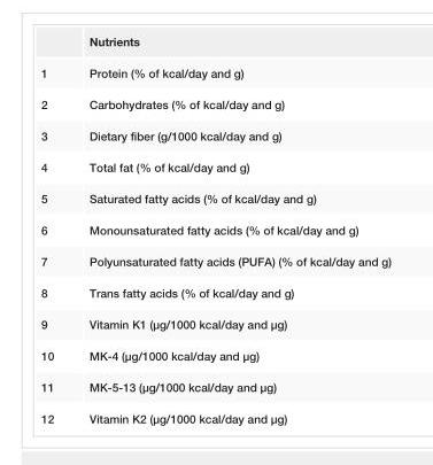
<table><thead><tr><td></td><td>Nutrients</td></tr></thead><tbody><tr><td>1</td><td>Protein (% of kcal/day and g)</td></tr><tr><td>2</td><td>Carbohydrates (% of kcal/day and g)</td></tr><tr><td>3</td><td>Dietary fiber (g/1000 kcal/day and g)</td></tr><tr><td>4</td><td>Total fat (% of kcal/day and g)</td></tr><tr><td>5</td><td>Saturated fatty acids (% of kcal/day and g)</td></tr><tr><td>6</td><td>Monounsaturated fatty acids (% of kcal/day and g)</td></tr><tr><td>7</td><td>Polyunsaturated fatty acids (PUFA) (% of kcal/day and g)</td></tr><tr><td>8</td><td>Trans fatty acids (% of kcal/day and g)</td></tr><tr><td>9</td><td>Vitamin K1 (µg/1000 kcal/day and µg)</td></tr><tr><td>10</td><td>MK-4 (µg/1000 kcal/day and µg)</td></tr><tr><td>11</td><td>MK-5-13 (µg/1000 kcal/day and µg)</td></tr><tr><td>12</td><td>Vitamin K2 (µg/1000 kcal/day and µg)</td></tr></tbody></table>